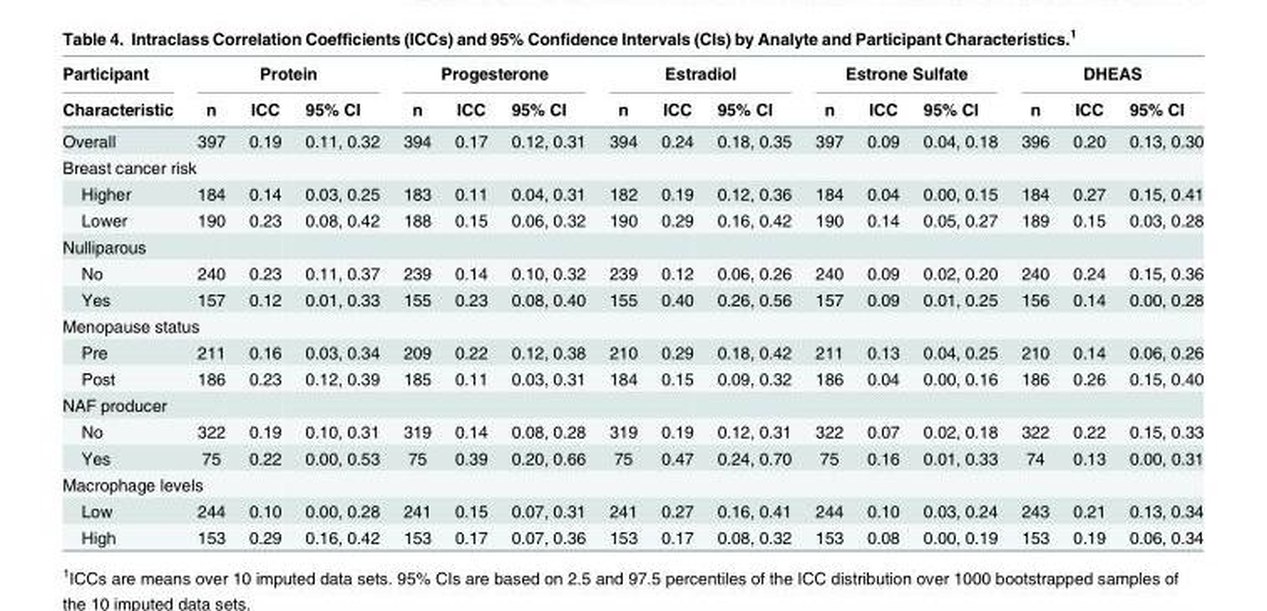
<table><thead><tr><td rowspan="2">Participant Characteristic</td><td colspan="3">Protein</td><td colspan="3">Progesterone</td><td colspan="3">Estradiol</td><td colspan="3">Estrone Sulfate</td><td colspan="3">DHEAS</td></tr><tr><td>n</td><td>ICC</td><td>95% CI</td><td>n</td><td>ICC</td><td>95% CI</td><td>n</td><td>ICC</td><td>95% CI</td><td>n</td><td>ICC</td><td>95% CI</td><td>n</td><td>ICC</td><td>95% CI</td></tr></thead><tbody><tr><td>Overall</td><td>397</td><td>0.19</td><td>0.11, 0.32</td><td>394</td><td>0.17</td><td>0.12, 0.31</td><td>394</td><td>0.24</td><td>0.18, 0.35</td><td>397</td><td>0.09</td><td>0.04, 0.18</td><td>396</td><td>0.20</td><td>0.13, 0.30</td></tr><tr><td colspan="16">Breast cancer risk</td></tr><tr><td>Higher</td><td>184</td><td>0.14</td><td>0.03, 0.25</td><td>183</td><td>0.11</td><td>0.04, 0.31</td><td>182</td><td>0.19</td><td>0.12, 0.36</td><td>184</td><td>0.04</td><td>0.00, 0.15</td><td>184</td><td>0.27</td><td>0.15, 0.41</td></tr><tr><td>Lower</td><td>190</td><td>0.23</td><td>0.08, 0.42</td><td>188</td><td>0.15</td><td>0.06, 0.32</td><td>190</td><td>0.29</td><td>0.16, 0.42</td><td>190</td><td>0.14</td><td>0.05, 0.27</td><td>189</td><td>0.15</td><td>0.03, 0.28</td></tr><tr><td colspan="16">Nulliparous</td></tr><tr><td>No</td><td>240</td><td>0.23</td><td>0.11, 0.37</td><td>239</td><td>0.14</td><td>0.10, 0.32</td><td>239</td><td>0.12</td><td>0.06, 0.26</td><td>240</td><td>0.09</td><td>0.02, 0.20</td><td>240</td><td>0.24</td><td>0.15, 0.36</td></tr><tr><td>Yes</td><td>157</td><td>0.12</td><td>0.01, 0.33</td><td>155</td><td>0.23</td><td>0.08, 0.40</td><td>155</td><td>0.40</td><td>0.26, 0.56</td><td>157</td><td>0.09</td><td>0.01, 0.25</td><td>156</td><td>0.14</td><td>0.00, 0.28</td></tr><tr><td colspan="16">Menopause status</td></tr><tr><td>Pre</td><td>211</td><td>0.16</td><td>0.03, 0.34</td><td>209</td><td>0.22</td><td>0.12, 0.38</td><td>210</td><td>0.29</td><td>0.18, 0.42</td><td>211</td><td>0.13</td><td>0.04, 0.25</td><td>210</td><td>0.14</td><td>0.06, 0.26</td></tr><tr><td>Post</td><td>186</td><td>0.23</td><td>0.12, 0.39</td><td>185</td><td>0.11</td><td>0.03, 0.31</td><td>184</td><td>0.15</td><td>0.09, 0.32</td><td>186</td><td>0.04</td><td>0.00, 0.16</td><td>186</td><td>0.26</td><td>0.15, 0.40</td></tr><tr><td colspan="16">NAF producer</td></tr><tr><td>No</td><td>322</td><td>0.19</td><td>0.10, 0.31</td><td>319</td><td>0.14</td><td>0.08, 0.28</td><td>319</td><td>0.19</td><td>0.12, 0.31</td><td>322</td><td>0.07</td><td>0.02, 0.18</td><td>322</td><td>0.22</td><td>0.15, 0.33</td></tr><tr><td>Yes</td><td>75</td><td>0.22</td><td>0.00, 0.53</td><td>75</td><td>0.39</td><td>0.20, 0.66</td><td>75</td><td>0.47</td><td>0.24, 0.70</td><td>75</td><td>0.16</td><td>0.01, 0.33</td><td>74</td><td>0.13</td><td>0.00, 0.31</td></tr><tr><td colspan="16">Macrophage levels</td></tr><tr><td>Low</td><td>244</td><td>0.10</td><td>0.00, 0.28</td><td>241</td><td>0.15</td><td>0.07, 0.31</td><td>241</td><td>0.27</td><td>0.16, 0.41</td><td>244</td><td>0.10</td><td>0.03, 0.24</td><td>243</td><td>0.21</td><td>0.13, 0.34</td></tr><tr><td>High</td><td>153</td><td>0.29</td><td>0.16, 0.42</td><td>153</td><td>0.17</td><td>0.07, 0.36</td><td>153</td><td>0.17</td><td>0.08, 0.32</td><td>153</td><td>0.08</td><td>0.00, 0.19</td><td>153</td><td>0.19</td><td>0.06, 0.34</td></tr></tbody></table>